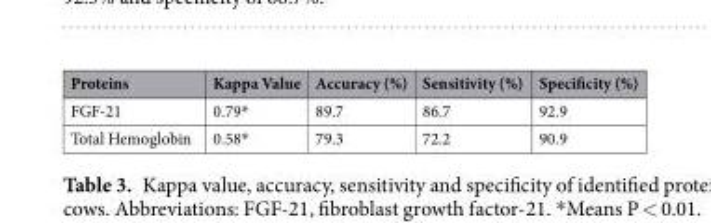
<table><thead><tr><td>Proteins</td><td>Kappa Value</td><td>Accuracy (%)</td><td>Sensitivity (%)</td><td>Specificity (%)</td></tr></thead><tbody><tr><td>FGF-21</td><td>0.79*</td><td>89.7</td><td>86.7</td><td>92.9</td></tr><tr><td>Total Hemoglobin</td><td>0.58*</td><td>79.3</td><td>72.2</td><td>90.9</td></tr></tbody></table>